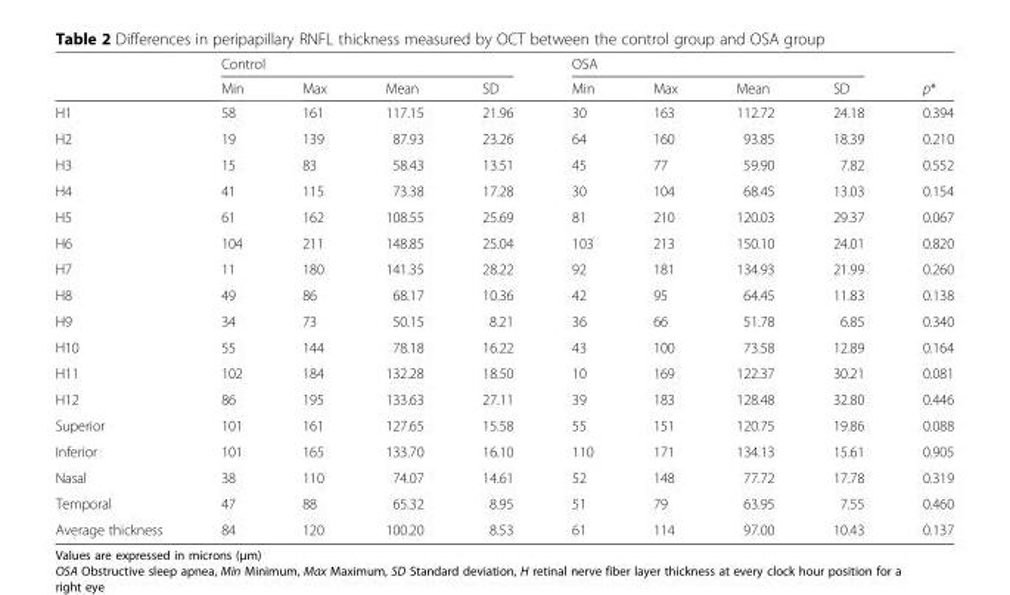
<table><thead><tr><td rowspan="2"></td><td colspan="4">Control</td><td colspan="4">OSA</td><td rowspan="2">p*</td></tr><tr><td>Min</td><td>Max</td><td>Mean</td><td>SD</td><td>Min</td><td>Max</td><td>Mean</td><td>SD</td></tr></thead><tbody><tr><td>H1</td><td>58</td><td>161</td><td>117.15</td><td>21.96</td><td>30</td><td>163</td><td>112.72</td><td>24.18</td><td>0.394</td></tr><tr><td>H2</td><td>19</td><td>139</td><td>87.93</td><td>23.26</td><td>64</td><td>160</td><td>93.85</td><td>18.39</td><td>0.210</td></tr><tr><td>H3</td><td>15</td><td>83</td><td>58.43</td><td>13.51</td><td>45</td><td>77</td><td>59.90</td><td>7.82</td><td>0.552</td></tr><tr><td>H4</td><td>41</td><td>115</td><td>73.38</td><td>17.28</td><td>30</td><td>104</td><td>68.45</td><td>13.03</td><td>0.154</td></tr><tr><td>H5</td><td>61</td><td>162</td><td>108.55</td><td>25.69</td><td>81</td><td>210</td><td>120.03</td><td>29.37</td><td>0.067</td></tr><tr><td>H6</td><td>104</td><td>211</td><td>148.85</td><td>25.04</td><td>103</td><td>213</td><td>150.10</td><td>24.01</td><td>0.820</td></tr><tr><td>H7</td><td>11</td><td>180</td><td>141.35</td><td>28.22</td><td>92</td><td>181</td><td>134.93</td><td>21.99</td><td>0.260</td></tr><tr><td>H8</td><td>49</td><td>86</td><td>68.17</td><td>10.36</td><td>42</td><td>95</td><td>64.45</td><td>11.83</td><td>0.138</td></tr><tr><td>H9</td><td>34</td><td>73</td><td>50.15</td><td>8.21</td><td>36</td><td>66</td><td>51.78</td><td>6.85</td><td>0.340</td></tr><tr><td>H10</td><td>55</td><td>144</td><td>78.18</td><td>16.22</td><td>43</td><td>100</td><td>73.58</td><td>12.89</td><td>0.164</td></tr><tr><td>H11</td><td>102</td><td>184</td><td>132.28</td><td>18.50</td><td>10</td><td>169</td><td>122.37</td><td>30.21</td><td>0.081</td></tr><tr><td>H12</td><td>86</td><td>195</td><td>133.63</td><td>27.11</td><td>39</td><td>183</td><td>128.48</td><td>32.80</td><td>0.446</td></tr><tr><td>Superior</td><td>101</td><td>161</td><td>127.65</td><td>15.58</td><td>55</td><td>151</td><td>120.75</td><td>19.86</td><td>0.088</td></tr><tr><td>Inferior</td><td>101</td><td>165</td><td>133.70</td><td>16.10</td><td>110</td><td>171</td><td>134.13</td><td>15.61</td><td>0.905</td></tr><tr><td>Nasal</td><td>38</td><td>110</td><td>74.07</td><td>14.61</td><td>52</td><td>148</td><td>77.72</td><td>17.78</td><td>0.319</td></tr><tr><td>Temporal</td><td>47</td><td>88</td><td>65.32</td><td>8.95</td><td>51</td><td>79</td><td>63.95</td><td>7.55</td><td>0.460</td></tr><tr><td>Average thickness</td><td>84</td><td>120</td><td>100.20</td><td>8.53</td><td>61</td><td>114</td><td>97.00</td><td>10.43</td><td>0.137</td></tr></tbody></table>